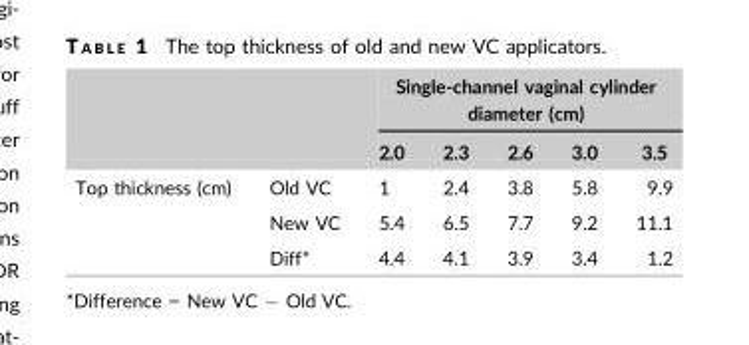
<table><thead><tr><td rowspan="2"></td><td rowspan="2"></td><td colspan="5">Single-channel vaginal cylinder diameter (cm)</td></tr><tr><td>2.0</td><td>2.3</td><td>2.6</td><td>3.0</td><td>3.5</td></tr></thead><tbody><tr><td rowspan="3">Top thickness (cm)</td><td>Old VC</td><td>1</td><td>2.4</td><td>3.8</td><td>5.8</td><td>9.9</td></tr><tr><td>New VC</td><td>5.4</td><td>6.5</td><td>7.7</td><td>9.2</td><td>11.1</td></tr><tr><td>Diff*</td><td>4.4</td><td>4.1</td><td>3.9</td><td>3.4</td><td>1.2</td></tr></tbody></table>